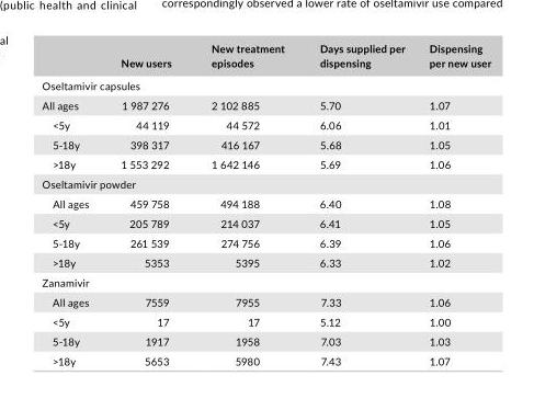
<table><thead><tr><td></td><td>New users</td><td>New treatment episodes</td><td>Days supplied per dispensing</td><td>Dispensing per new user</td></tr></thead><tbody><tr><td colspan="5">Oseltamivir capsules</td></tr><tr><td>All ages</td><td>1 987 276</td><td>2 102 885</td><td>5.70</td><td>1.07</td></tr><tr><td>&lt;5y</td><td>44 119</td><td>44 572</td><td>6.06</td><td>1.01</td></tr><tr><td>5- 18y</td><td>398 317</td><td>416 167</td><td>5.68</td><td>1.05</td></tr><tr><td>&gt;18y</td><td>1 553 292</td><td>1 642 146</td><td>5.69</td><td>1.06</td></tr><tr><td colspan="5">Oseltamivir powder</td></tr><tr><td>All ages</td><td>459 758</td><td>494 188</td><td>6.40</td><td>1.08</td></tr><tr><td>&lt;5y</td><td>205 789</td><td>214 037</td><td>6.41</td><td>1.05</td></tr><tr><td>5- 18y</td><td>261 539</td><td>274 756</td><td>6.39</td><td>1.06</td></tr><tr><td>&gt;18y</td><td>5353</td><td>5395</td><td>6.33</td><td>1.02</td></tr><tr><td colspan="5">Zanamivir</td></tr><tr><td>All ages</td><td>7559</td><td>7955</td><td>7.33</td><td>1.06</td></tr><tr><td>&lt;5y</td><td>17</td><td>17</td><td>5.12</td><td>1.00</td></tr><tr><td>5- 18y</td><td>1917</td><td>1958</td><td>7.03</td><td>1.03</td></tr><tr><td>&gt;18y</td><td>5653</td><td>5980</td><td>7.43</td><td>1.07</td></tr></tbody></table>